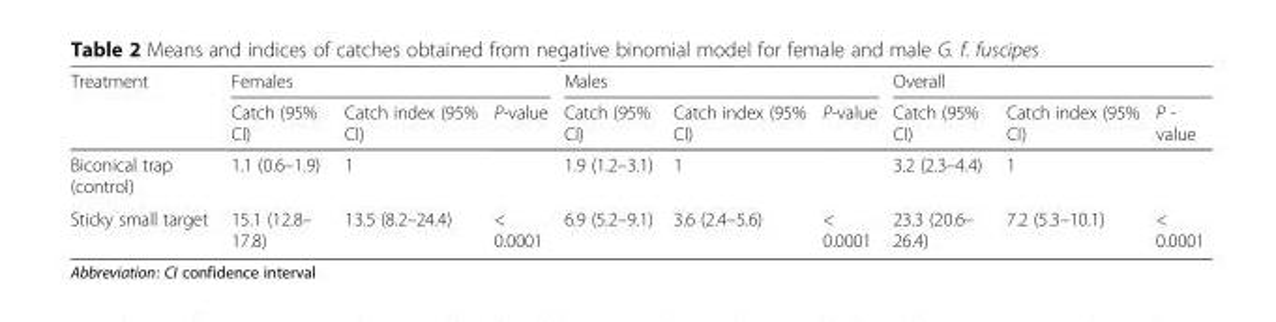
<table><thead><tr><td rowspan="2">Treatment</td><td colspan="3">Females</td><td colspan="3">Males</td><td colspan="3">Overall</td></tr><tr><td>Catch (95% CI)</td><td>Catch index (95% CI)</td><td>P-value</td><td>Catch (95% CI)</td><td>Catch index (95% CI)</td><td>P-value</td><td>Catch (95% CI)</td><td>Catch index (95% CI)</td><td>P - value</td></tr></thead><tbody><tr><td>Biconical trap (control)</td><td>1.1 (0.6–1.9)</td><td>1</td><td></td><td>1.9 (1.2–3.1)</td><td>1</td><td></td><td>3.2 (2.3–4.4)</td><td>1</td><td></td></tr><tr><td>Sticky small target</td><td>15.1 (12.8– 17.8)</td><td>13.5 (8.2–24.4)</td><td>&lt; 0.0001</td><td>6.9 (5.2–9.1)</td><td>3.6 (2.4–5.6)</td><td>&lt; 0.0001</td><td>23.3 (20.6– 26.4)</td><td>7.2 (5.3–10.1)</td><td>&lt; 0.0001</td></tr></tbody></table>